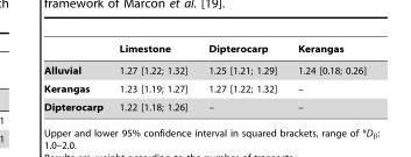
<table><thead><tr><td></td><td>Limestone</td><td>Dipterocarp</td><td>Kerangas</td></tr></thead><tbody><tr><td>Alluvial</td><td>1.27 [1.22; 1.32]</td><td>1.25 [1.21; 1.29]</td><td>1.24 [0.18; 0.26]</td></tr><tr><td>Kerangas</td><td>1.23 [1.19; 1.27]</td><td>1.27 [1.22; 1.32]</td><td>–</td></tr><tr><td>Dipterocarp</td><td>1.22 [1.18; 1.26]</td><td>–</td><td>–</td></tr></tbody></table>